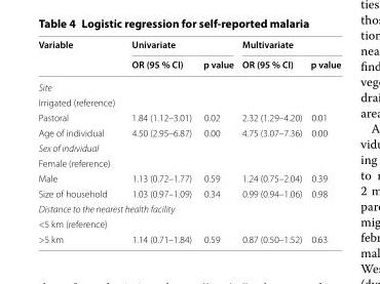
<table><thead><tr><td rowspan="2">Variable</td><td colspan="2">Univariate</td><td colspan="2">Multivariate</td></tr><tr><td>OR (95 % CI)</td><td>p value</td><td>OR (95 % CI)</td><td>p value</td></tr></thead><tbody><tr><td colspan="5">Site</td></tr><tr><td colspan="5">Irrigated (reference)</td></tr><tr><td>Pastoral</td><td>1.84 (1.12–3.01)</td><td>0.02</td><td>2.32 (1.29–4.20)</td><td>0.01</td></tr><tr><td>Age of individual</td><td>4.50 (2.95–6.87)</td><td>0.00</td><td>4.75 (3.07–7.36)</td><td>0.00</td></tr><tr><td colspan="5">Sex of individual</td></tr><tr><td colspan="5">Female (reference)</td></tr><tr><td>Male</td><td>1.13 (0.72–1.77)</td><td>0.59</td><td>1.24 (0.75–2.04)</td><td>0.39</td></tr><tr><td>Size of household</td><td>1.03 (0.97–1.09)</td><td>0.34</td><td>0.99 (0.94–1.06)</td><td>0.98</td></tr><tr><td colspan="5">Distance to the nearest health facility</td></tr><tr><td colspan="5">&lt;5 km (reference)</td></tr><tr><td>&gt;5 km</td><td>1.14 (0.71–1.84)</td><td>0.59</td><td>0.87 (0.50–1.52)</td><td>0.63</td></tr></tbody></table>